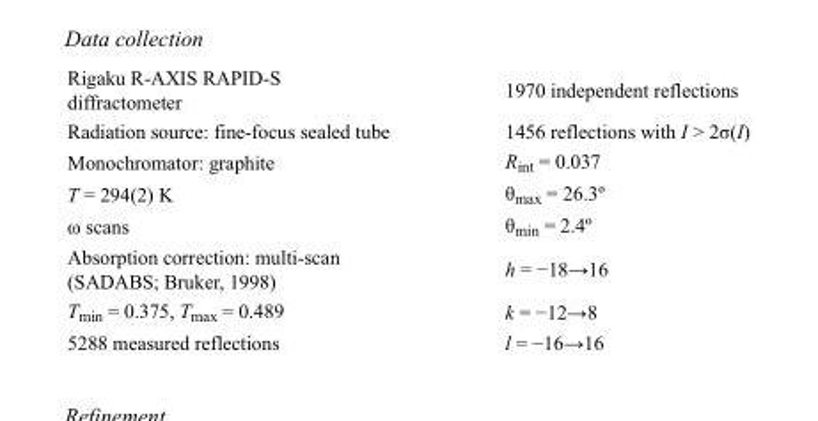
<table><tbody><tr><td>Rigaku R-AXIS RAPID-S diffractometer</td><td>1970 independent reflections</td></tr><tr><td>Radiation source: fine-focus sealed tube</td><td>1456 reflections with I &gt; 2σ(I)</td></tr><tr><td>Monochromator: graphite</td><td>R<sub>int</sub> = 0.037</td></tr><tr><td>T = 294(2) K</td><td>θ<sub>max</sub> = 26.3º</td></tr><tr><td>ω scans</td><td>θ<sub>min</sub> = 2.4º</td></tr><tr><td>Absorption correction: multi-scan (SADABS; Bruker, 1998)</td><td>h = −18→16</td></tr><tr><td>T<sub>min</sub> = 0.375, T<sub>max</sub> = 0.489</td><td>k = −12→8</td></tr><tr><td>5288 measured reflections</td><td>l = −16→16</td></tr></tbody></table>